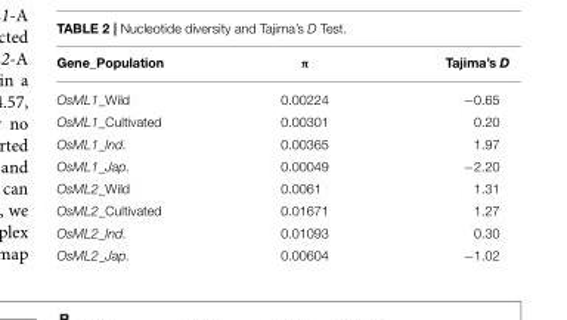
<table><thead><tr><td>Gene_Population</td><td>π</td><td>Tajima’s D</td></tr></thead><tbody><tr><td>OsML1_Wild</td><td>0.00224</td><td>−0.65</td></tr><tr><td>OsML1_Cultivated</td><td>0.00301</td><td>0.20</td></tr><tr><td>OsML1_Ind.</td><td>0.00365</td><td>1.97</td></tr><tr><td>OsML1_Jap.</td><td>0.00049</td><td>−2.20</td></tr><tr><td>OsML2_Wild</td><td>0.0061</td><td>1.31</td></tr><tr><td>OsML2_Cultivated</td><td>0.01671</td><td>1.27</td></tr><tr><td>OsML2_Ind.</td><td>0.01093</td><td>0.30</td></tr><tr><td>OsML2_Jap.</td><td>0.00604</td><td>−1.02</td></tr></tbody></table>